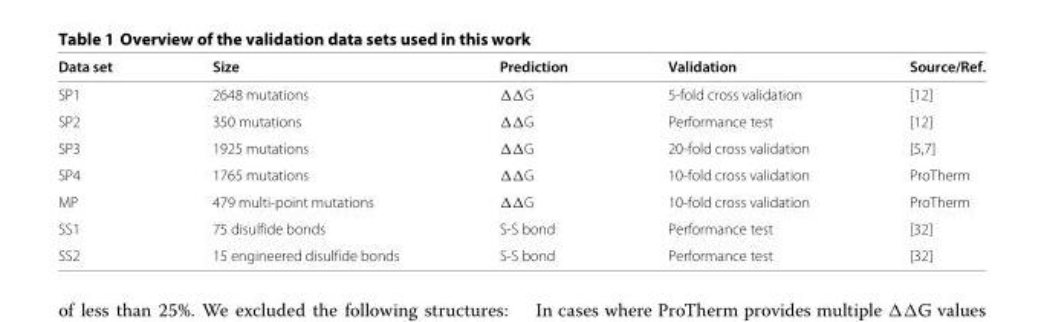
<table><thead><tr><td>Data set</td><td>Size</td><td>Prediction</td><td>Validation</td><td>Source/Ref.</td></tr></thead><tbody><tr><td>SP1</td><td>2648 mutations</td><td>ΔΔG</td><td>5-fold cross validation</td><td>[12]</td></tr><tr><td>SP2</td><td>350 mutations</td><td>ΔΔG</td><td>Performance test</td><td>[12]</td></tr><tr><td>SP3</td><td>1925 mutations</td><td>ΔΔG</td><td>20-fold cross validation</td><td>[5,7]</td></tr><tr><td>SP4</td><td>1765 mutations</td><td>ΔΔG</td><td>10-fold cross validation</td><td>ProTherm</td></tr><tr><td>MP</td><td>479 multi-point mutations</td><td>ΔΔG</td><td>10-fold cross validation</td><td>ProTherm</td></tr><tr><td>SS1</td><td>75 disulfide bonds</td><td>S-S bond</td><td>Performance test</td><td>[32]</td></tr><tr><td>SS2</td><td>15 engineered disulfide bonds</td><td>S-S bond</td><td>Performance test</td><td>[32]</td></tr></tbody></table>